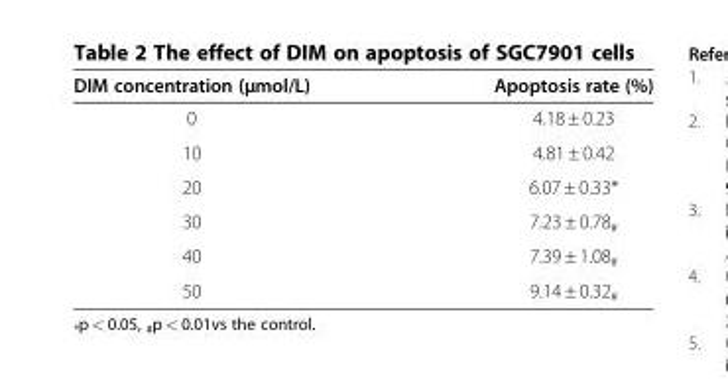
<table><thead><tr><td>DIM concentration (μmol/L)</td><td>Apoptosis rate (%)</td></tr></thead><tbody><tr><td>0</td><td>4.18 ± 0.23</td></tr><tr><td>10</td><td>4.81 ± 0.42</td></tr><tr><td>20</td><td>6.07 ± 0.33*</td></tr><tr><td>30</td><td>7.23 ± 0.78<sub>#</sub></td></tr><tr><td>40</td><td>7.39 ± 1.08<sub>#</sub></td></tr><tr><td>50</td><td>9.14 ± 0.32<sub>#</sub></td></tr></tbody></table>